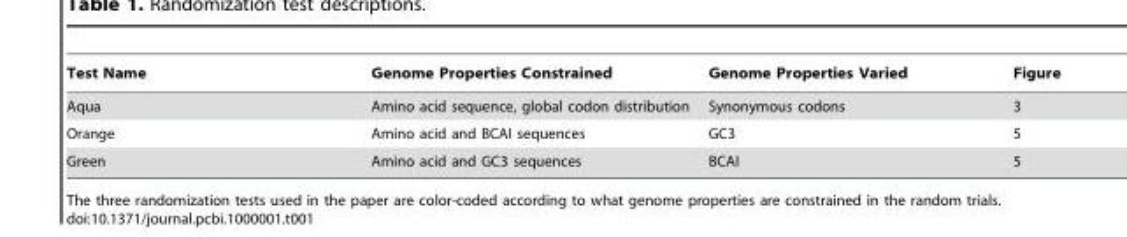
<table><thead><tr><td>Test Name</td><td>Genome Properties Constrained</td><td>Genome Properties Varied</td><td>Figure</td></tr></thead><tbody><tr><td>Aqua</td><td>Amino acid sequence, global codon distribution</td><td>Synonymous codons</td><td>3</td></tr><tr><td>Orange</td><td>Amino acid and BCAI sequences</td><td>GC3</td><td>5</td></tr><tr><td>Green</td><td>Amino acid and GC3 sequences</td><td>BCAI</td><td>5</td></tr></tbody></table>